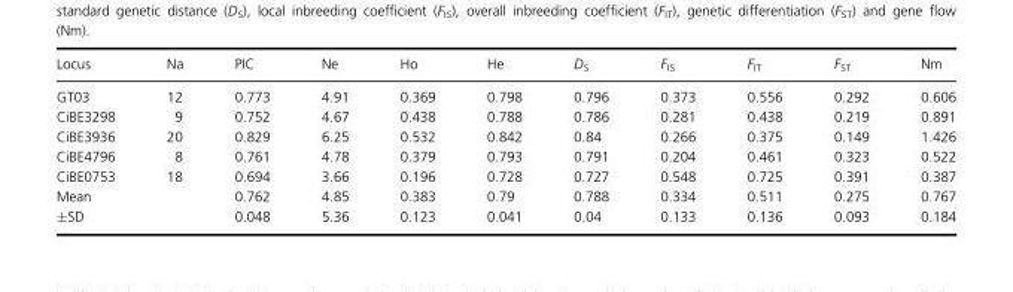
<table><thead><tr><td>Locus</td><td>Na</td><td>PIC</td><td>Ne</td><td>Ho</td><td>He</td><td>D<sub>S</sub></td><td>F<sub>IS</sub></td><td>F<sub>IT</sub></td><td>F<sub>ST</sub></td><td>Nm</td></tr></thead><tbody><tr><td>GT03</td><td>12</td><td>0.773</td><td>4.91</td><td>0.369</td><td>0.798</td><td>0.796</td><td>0.373</td><td>0.556</td><td>0.292</td><td>0.606</td></tr><tr><td>CiBE3298</td><td>9</td><td>0.752</td><td>4.67</td><td>0.438</td><td>0.788</td><td>0.786</td><td>0.281</td><td>0.438</td><td>0.219</td><td>0.891</td></tr><tr><td>CiBE3936</td><td>20</td><td>0.829</td><td>6.25</td><td>0.532</td><td>0.842</td><td>0.84</td><td>0.266</td><td>0.375</td><td>0.149</td><td>1.426</td></tr><tr><td>CiBE4796</td><td>8</td><td>0.761</td><td>4.78</td><td>0.379</td><td>0.793</td><td>0.791</td><td>0.204</td><td>0.461</td><td>0.323</td><td>0.522</td></tr><tr><td>CiBE0753</td><td>18</td><td>0.694</td><td>3.66</td><td>0.196</td><td>0.728</td><td>0.727</td><td>0.548</td><td>0.725</td><td>0.391</td><td>0.387</td></tr><tr><td>Mean</td><td></td><td>0.762</td><td>4.85</td><td>0.383</td><td>0.79</td><td>0.788</td><td>0.334</td><td>0.511</td><td>0.275</td><td>0.767</td></tr><tr><td>±SD</td><td></td><td>0.048</td><td>5.36</td><td>0.123</td><td>0.041</td><td>0.04</td><td>0.133</td><td>0.136</td><td>0.093</td><td>0.184</td></tr></tbody></table>